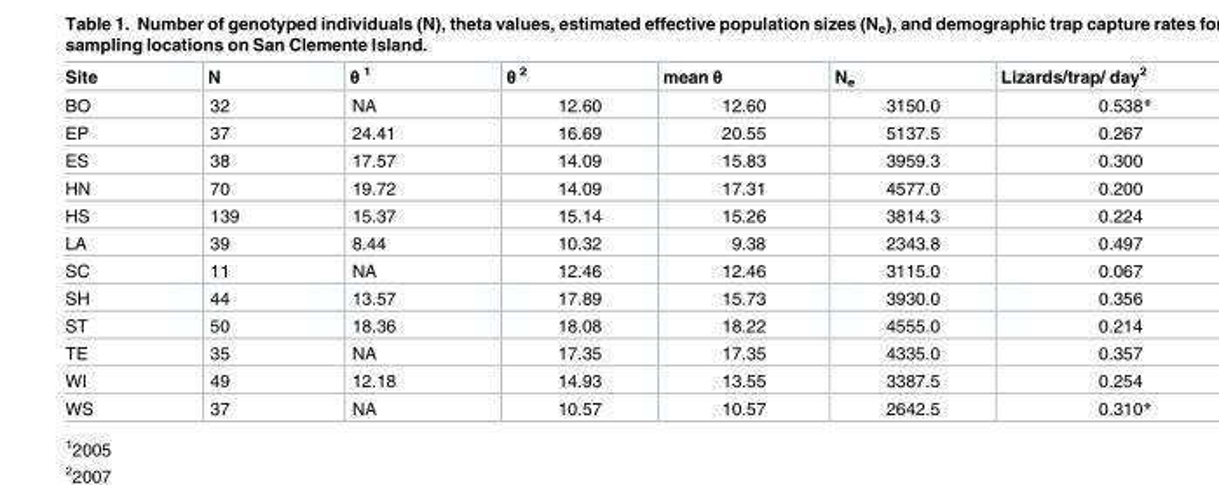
<table><thead><tr><td>Site</td><td>N</td><td>θ <sup>1</sup></td><td>θ <sup>2</sup></td><td>mean θ</td><td>N<sub>e</sub></td><td>Lizards/trap/ day<sup>2</sup></td></tr></thead><tbody><tr><td>BO</td><td>32</td><td>NA</td><td>12.60</td><td>12.60</td><td>3150.0</td><td>0.538*</td></tr><tr><td>EP</td><td>37</td><td>24.41</td><td>16.69</td><td>20.55</td><td>5137.5</td><td>0.267</td></tr><tr><td>ES</td><td>38</td><td>17.57</td><td>14.09</td><td>15.83</td><td>3959.3</td><td>0.300</td></tr><tr><td>HN</td><td>70</td><td>19.72</td><td>14.09</td><td>17.31</td><td>4577.0</td><td>0.200</td></tr><tr><td>HS</td><td>139</td><td>15.37</td><td>15.14</td><td>15.26</td><td>3814.3</td><td>0.224</td></tr><tr><td>LA</td><td>39</td><td>8.44</td><td>10.32</td><td>9.38</td><td>2343.8</td><td>0.497</td></tr><tr><td>SC</td><td>11</td><td>NA</td><td>12.46</td><td>12.46</td><td>3115.0</td><td>0.067</td></tr><tr><td>SH</td><td>44</td><td>13.57</td><td>17.89</td><td>15.73</td><td>3930.0</td><td>0.356</td></tr><tr><td>ST</td><td>50</td><td>18.36</td><td>18.08</td><td>18.22</td><td>4555.0</td><td>0.214</td></tr><tr><td>TE</td><td>35</td><td>NA</td><td>17.35</td><td>17.35</td><td>4335.0</td><td>0.357</td></tr><tr><td>WI</td><td>49</td><td>12.18</td><td>14.93</td><td>13.55</td><td>3387.5</td><td>0.254</td></tr><tr><td>WS</td><td>37</td><td>NA</td><td>10.57</td><td>10.57</td><td>2642.5</td><td>0.310*</td></tr></tbody></table>